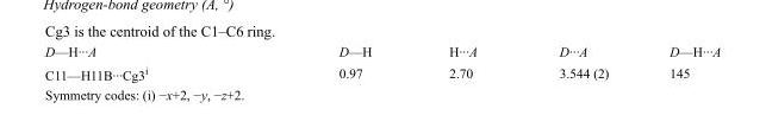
<table><tbody><tr><td>D—H···A</td><td>D—H</td><td>H···A</td><td>D···A</td><td>D—H···A</td></tr><tr><td>C11—H11B···Cg3<sup>i</sup></td><td>0.97</td><td>2.70</td><td>3.544 (2)</td><td>145</td></tr></tbody></table>